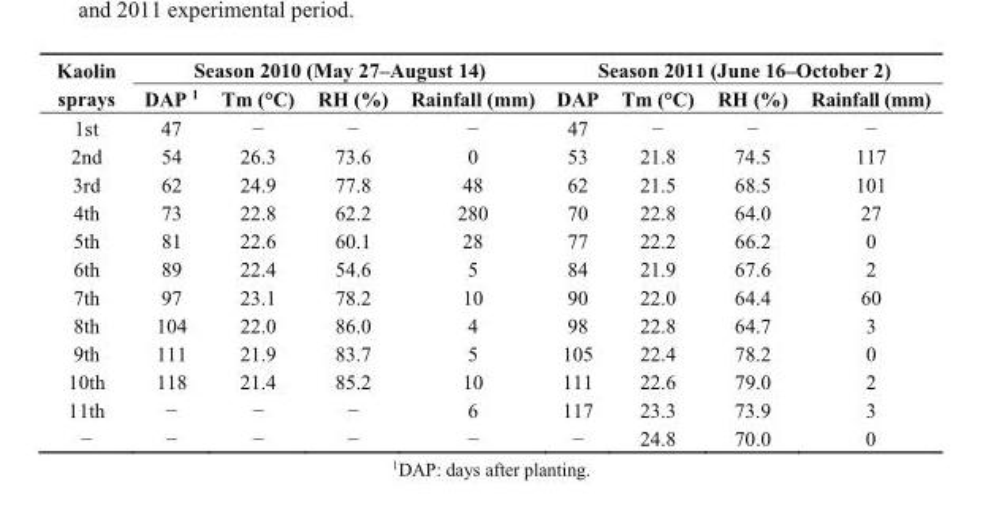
<table><thead><tr><td rowspan="2">Kaolin sprays</td><td colspan="4">Season 2010 (May 27–August 14)</td><td colspan="4">Season 2011 (June 16–October 2)</td></tr><tr><td>DAP <sup>1</sup></td><td>Tm (°C)</td><td>RH (%)</td><td>Rainfall (mm)</td><td>DAP</td><td>Tm (°C)</td><td>RH (%)</td><td>Rainfall (mm)</td></tr></thead><tbody><tr><td>1st</td><td>47</td><td>−</td><td>−</td><td>−</td><td>47</td><td>−</td><td>−</td><td>−</td></tr><tr><td>2nd</td><td>54</td><td>26.3</td><td>73.6</td><td>0</td><td>53</td><td>21.8</td><td>74.5</td><td>117</td></tr><tr><td>3rd</td><td>62</td><td>24.9</td><td>77.8</td><td>48</td><td>62</td><td>21.5</td><td>68.5</td><td>101</td></tr><tr><td>4th</td><td>73</td><td>22.8</td><td>62.2</td><td>280</td><td>70</td><td>22.8</td><td>64.0</td><td>27</td></tr><tr><td>5th</td><td>81</td><td>22.6</td><td>60.1</td><td>28</td><td>77</td><td>22.2</td><td>66.2</td><td>0</td></tr><tr><td>6th</td><td>89</td><td>22.4</td><td>54.6</td><td>5</td><td>84</td><td>21.9</td><td>67.6</td><td>2</td></tr><tr><td>7th</td><td>97</td><td>23.1</td><td>78.2</td><td>10</td><td>90</td><td>22.0</td><td>64.4</td><td>60</td></tr><tr><td>8th</td><td>104</td><td>22.0</td><td>86.0</td><td>4</td><td>98</td><td>22.8</td><td>64.7</td><td>3</td></tr><tr><td>9th</td><td>111</td><td>21.9</td><td>83.7</td><td>5</td><td>105</td><td>22.4</td><td>78.2</td><td>0</td></tr><tr><td>10th</td><td>118</td><td>21.4</td><td>85.2</td><td>10</td><td>111</td><td>22.6</td><td>79.0</td><td>2</td></tr><tr><td>11th</td><td>−</td><td>−</td><td>−</td><td>6</td><td>117</td><td>23.3</td><td>73.9</td><td>3</td></tr><tr><td>−</td><td>−</td><td>−</td><td>−</td><td>−</td><td>−</td><td>24.8</td><td>70.0</td><td>0</td></tr></tbody></table>